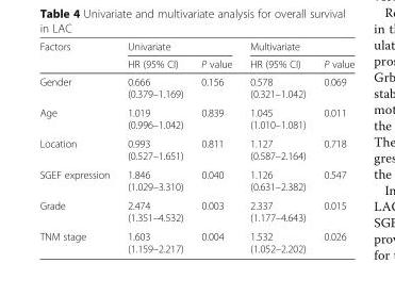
<table><thead><tr><td rowspan="2">Factors</td><td colspan="2">Univariate</td><td colspan="2">Multivariate</td></tr><tr><td>HR (95% CI)</td><td>P value</td><td>HR (95% CI)</td><td>P value</td></tr></thead><tbody><tr><td>Gender</td><td>0.666 (0.379–1.169)</td><td>0.156</td><td>0.578 (0.321–1.042)</td><td>0.069</td></tr><tr><td>Age</td><td>1.019 (0.996–1.042)</td><td>0.839</td><td>1.045 (1.010–1.081)</td><td>0.011</td></tr><tr><td>Location</td><td>0.993 (0.527–1.651)</td><td>0.811</td><td>1.127 (0.587–2.164)</td><td>0.718</td></tr><tr><td>SGEF expression</td><td>1.846 (1.029–3.310)</td><td>0.040</td><td>1.126 (0.631–2.382)</td><td>0.547</td></tr><tr><td>Grade</td><td>2.474 (1.351–4.532)</td><td>0.003</td><td>2.337 (1.177–4.643)</td><td>0.015</td></tr><tr><td>TNM stage</td><td>1.603 (1.159–2.217)</td><td>0.004</td><td>1.532 (1.052–2.202)</td><td>0.026</td></tr></tbody></table>